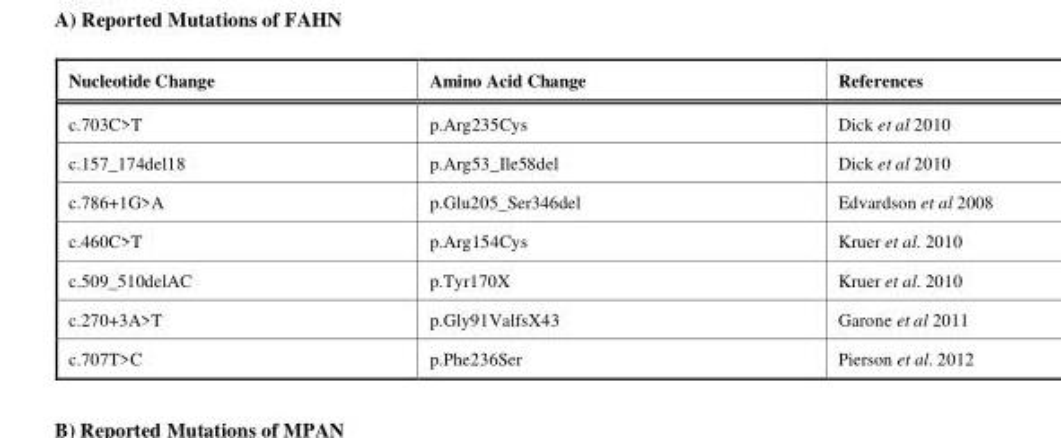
<table><thead><tr><td>Nucleotide Change</td><td>Amino Acid Change</td><td>References</td></tr></thead><tbody><tr><td>c.703C&gt;T</td><td>p.Arg235Cys</td><td>Dick et al 2010</td></tr><tr><td>c.157_174del18</td><td>p.Arg53_Ile58del</td><td>Dick et al 2010</td></tr><tr><td>c.786+1G&gt;A</td><td>p.Glu205_Ser346del</td><td>Edvardson et al 2008</td></tr><tr><td>c.460C&gt;T</td><td>p.Arg154Cys</td><td>Kruer et al. 2010</td></tr><tr><td>c.509_510delAC</td><td>p.Tyr170X</td><td>Kruer et al. 2010</td></tr><tr><td>c.270+3A&gt;T</td><td>p.Gly91ValfsX43</td><td>Garone et al 2011</td></tr><tr><td>c.707T&gt;C</td><td>p.Phe236Ser</td><td>Pierson et al. 2012</td></tr></tbody></table>